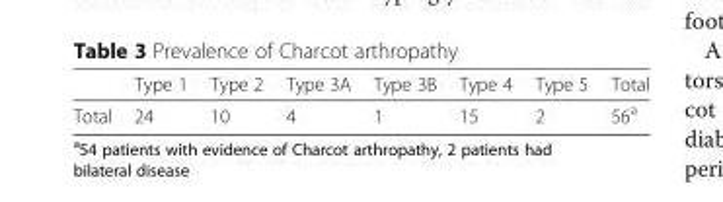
<table><thead><tr><td></td><td>Type 1</td><td>Type 2</td><td>Type 3A</td><td>Type 3B</td><td>Type 4</td><td>Type 5</td><td>Total</td></tr></thead><tbody><tr><td>Total</td><td>24</td><td>10</td><td>4</td><td>1</td><td>15</td><td>2</td><td>56<sup>a</sup></td></tr></tbody></table>